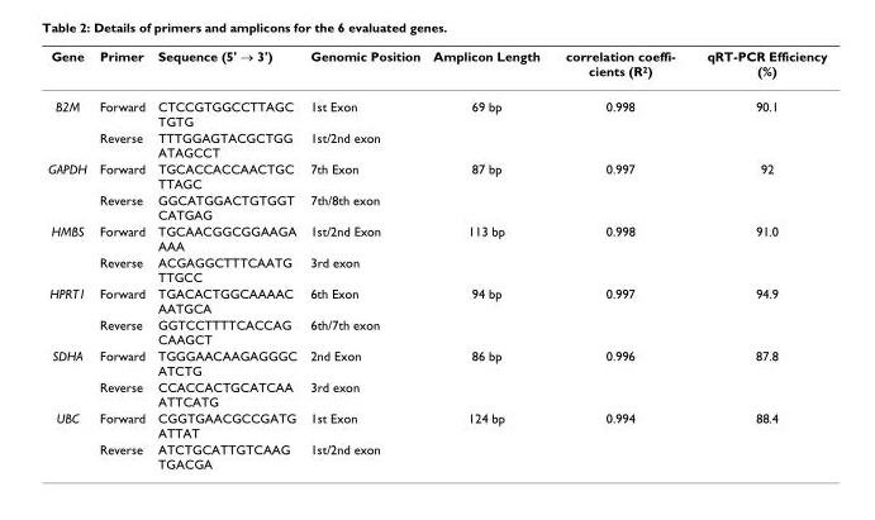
<table><thead><tr><td>Gene</td><td>Primer</td><td>Sequence (5&#x27; → 3&#x27;)</td><td>Genomic Position</td><td>Amplicon Length</td><td>correlation coeffi- cients (R2)</td><td>qRT-PCR Efficiency (%)</td></tr></thead><tbody><tr><td rowspan="2">B2M</td><td>Forward</td><td>CTCCGTGGCCTTAGC TGTG</td><td>1st Exon</td><td>69 bp</td><td>0.998</td><td>90.1</td></tr><tr><td>Reverse</td><td>TTTGGAGTACGCTGG ATAGCCT</td><td>1st/2nd exon</td><td></td><td></td><td></td></tr><tr><td rowspan="2">GAPDH</td><td>Forward</td><td>TGCACCACCAACTGC TTAGC</td><td>7th Exon</td><td>87 bp</td><td>0.997</td><td>92</td></tr><tr><td>Reverse</td><td>GGCATGGACTGTGGT CATGAG</td><td>7th/8th exon</td><td></td><td></td><td></td></tr><tr><td rowspan="2">HMBS</td><td>Forward</td><td>TGCAACGGCGGAAGA AAA</td><td>1st/2nd Exon</td><td>113 bp</td><td>0.998</td><td>91.0</td></tr><tr><td>Reverse</td><td>ACGAGGCTTTCAATG TTGCC</td><td>3rd exon</td><td></td><td></td><td></td></tr><tr><td rowspan="2">HPRT1</td><td>Forward</td><td>TGACACTGGCAAAAC AATGCA</td><td>6th Exon</td><td>94 bp</td><td>0.997</td><td>94.9</td></tr><tr><td>Reverse</td><td>GGTCCTTTTCACCAG CAAGCT</td><td>6th/7th exon</td><td></td><td></td><td></td></tr><tr><td rowspan="2">SDHA</td><td>Forward</td><td>TGGGAACAAGAGGGC ATCTG</td><td>2nd Exon</td><td>86 bp</td><td>0.996</td><td>87.8</td></tr><tr><td>Reverse</td><td>CCACCACTGCATCAA ATTCATG</td><td>3rd exon</td><td></td><td></td><td></td></tr><tr><td rowspan="2">UBC</td><td>Forward</td><td>CGGTGAACGCCGATG ATTAT</td><td>1st Exon</td><td>124 bp</td><td>0.994</td><td>88.4</td></tr><tr><td>Reverse</td><td>ATCTGCATTGTCAAG TGACGA</td><td>1st/2nd exon</td><td></td><td></td><td></td></tr></tbody></table>